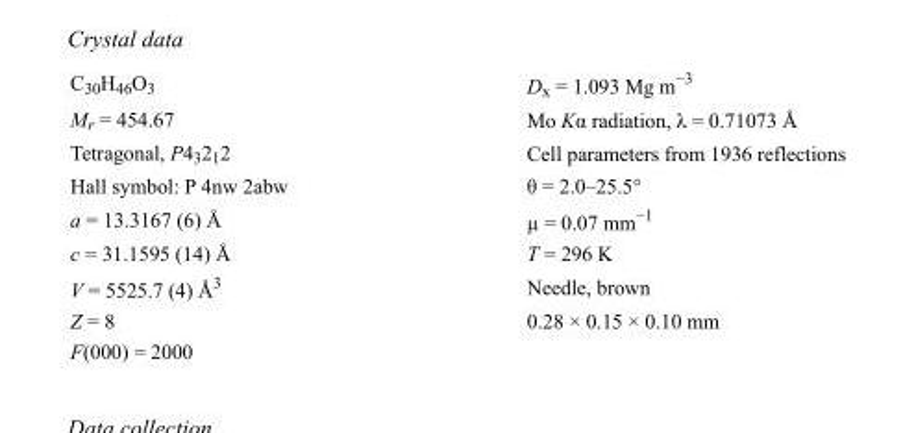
<table><tbody><tr><td>C<sub>30</sub>H<sub>46</sub>O<sub>3</sub></td><td>D<sub>x</sub> = 1.093 Mg m<sup>−3</sup></td></tr><tr><td>M<sub>r</sub> = 454.67</td><td>Mo Kα radiation, λ = 0.71073 Å</td></tr><tr><td>Tetragonal, P4<sub>3</sub>2<sub>1</sub>2</td><td>Cell parameters from 1936 reflections</td></tr><tr><td>Hall symbol: P 4nw 2abw</td><td>θ = 2.0–25.5°</td></tr><tr><td>a = 13.3167 (6) Å</td><td>µ = 0.07 mm<sup>−1</sup></td></tr><tr><td>c = 31.1595 (14) Å</td><td>T = 296 K</td></tr><tr><td>V = 5525.7 (4) Å<sup>3</sup></td><td>Needle, brown</td></tr><tr><td>Z = 8</td><td>0.28 × 0.15 × 0.10 mm</td></tr><tr><td>F(000) = 2000</td><td></td></tr></tbody></table>